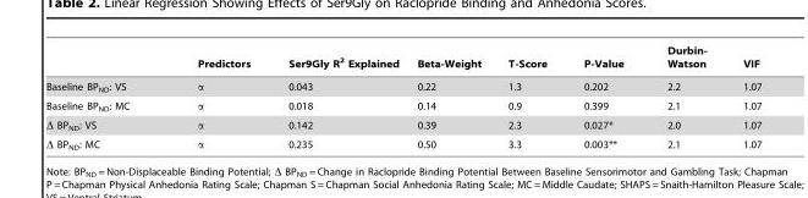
<table><thead><tr><td></td><td>Predictors</td><td>Ser9Gly R<sup>2</sup> Explained</td><td>Beta-Weight</td><td>T-Score</td><td>P-Value</td><td>Durbin- Watson</td><td>VIF</td></tr></thead><tbody><tr><td>Baseline BP<sub>ND</sub>: VS</td><td>α</td><td>0.043</td><td>0.22</td><td>1.3</td><td>0.202</td><td>2.2</td><td>1.07</td></tr><tr><td>Baseline BP<sub>ND</sub>: MC</td><td>α</td><td>0.018</td><td>0.14</td><td>0.9</td><td>0.399</td><td>2.1</td><td>1.07</td></tr><tr><td>Δ BP<sub>ND</sub>: VS</td><td>α</td><td>0.142</td><td>0.39</td><td>2.3</td><td>0.027*</td><td>2.0</td><td>1.07</td></tr><tr><td>Δ BP<sub>ND</sub>: MC</td><td>α</td><td>0.235</td><td>0.50</td><td>3.3</td><td>0.003**</td><td>2.1</td><td>1.07</td></tr></tbody></table>